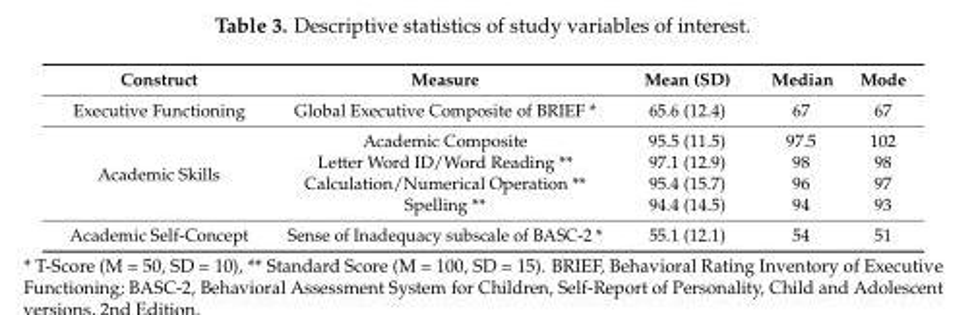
<table><thead><tr><td>Construct</td><td>Measure</td><td>Mean (SD)</td><td>Median</td><td>Mode</td></tr></thead><tbody><tr><td>Executive Functioning</td><td>Global Executive Composite of BRIEF *</td><td>65.6 (12.4)</td><td>67</td><td>67</td></tr><tr><td rowspan="4">Academic Skills</td><td>Academic Composite</td><td>95.5 (11.5)</td><td>97.5</td><td>102</td></tr><tr><td>Letter Word ID/Word Reading **</td><td>97.1 (12.9)</td><td>98</td><td>98</td></tr><tr><td>Calculation/Numerical Operation **</td><td>95.4 (15.7)</td><td>96</td><td>97</td></tr><tr><td>Spelling **</td><td>94.4 (14.5)</td><td>94</td><td>93</td></tr><tr><td>Academic Self-Concept</td><td>Sense of Inadequacy subscale of BASC-2 *</td><td>55.1 (12.1)</td><td>54</td><td>51</td></tr></tbody></table>